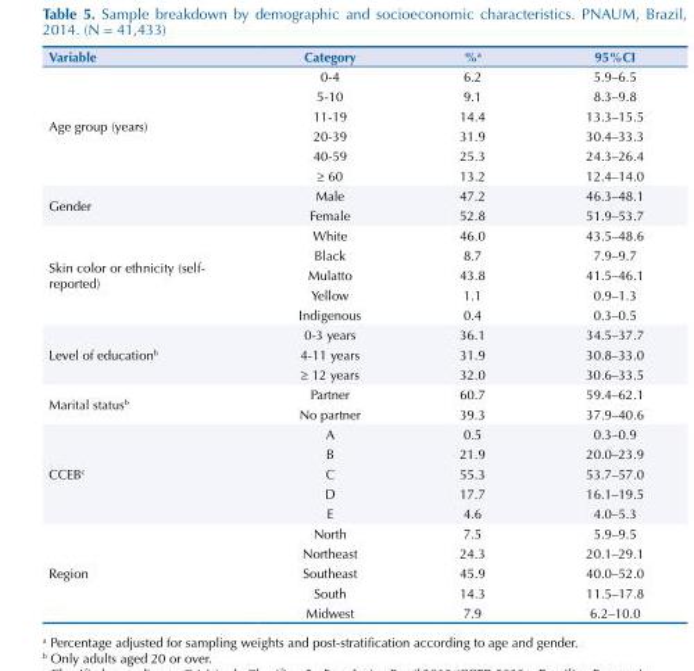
<table><thead><tr><td>Variable</td><td>Category</td><td>%<sup>a</sup></td><td>95%CI</td></tr></thead><tbody><tr><td rowspan="6">Age group (years)</td><td>0-4</td><td>6.2</td><td>5.9–6.5</td></tr><tr><td>5-10</td><td>9.1</td><td>8.3–9.8</td></tr><tr><td>11-19</td><td>14.4</td><td>13.3–15.5</td></tr><tr><td>20-39</td><td>31.9</td><td>30.4–33.3</td></tr><tr><td>40-59</td><td>25.3</td><td>24.3–26.4</td></tr><tr><td>≥ 60</td><td>13.2</td><td>12.4–14.0</td></tr><tr><td rowspan="2">Gender</td><td>Male</td><td>47.2</td><td>46.3–48.1</td></tr><tr><td>Female</td><td>52.8</td><td>51.9–53.7</td></tr><tr><td rowspan="5">Skin color or ethnicity (self- reported)</td><td>White</td><td>46.0</td><td>43.5–48.6</td></tr><tr><td>Black</td><td>8.7</td><td>7.9–9.7</td></tr><tr><td>Mulatto</td><td>43.8</td><td>41.5–46.1</td></tr><tr><td>Yellow</td><td>1.1</td><td>0.9–1.3</td></tr><tr><td>Indigenous</td><td>0.4</td><td>0.3–0.5</td></tr><tr><td rowspan="3">Level of education<sup>b</sup></td><td>0-3 years</td><td>36.1</td><td>34.5–37.7</td></tr><tr><td>4-11 years</td><td>31.9</td><td>30.8–33.0</td></tr><tr><td>≥ 12 years</td><td>32.0</td><td>30.6–33.5</td></tr><tr><td rowspan="2">Marital status<sup>b</sup></td><td>Partner</td><td>60.7</td><td>59.4–62.1</td></tr><tr><td>No partner</td><td>39.3</td><td>37.9–40.6</td></tr><tr><td rowspan="5">CCEB<sup>c</sup></td><td>A</td><td>0.5</td><td>0.3–0.9</td></tr><tr><td>B</td><td>21.9</td><td>20.0–23.9</td></tr><tr><td>C</td><td>55.3</td><td>53.7–57.0</td></tr><tr><td>D</td><td>17.7</td><td>16.1–19.5</td></tr><tr><td>E</td><td>4.6</td><td>4.0–5.3</td></tr><tr><td rowspan="5">Region</td><td>North</td><td>7.5</td><td>5.9–9.5</td></tr><tr><td>Northeast</td><td>24.3</td><td>20.1–29.1</td></tr><tr><td>Southeast</td><td>45.9</td><td>40.0–52.0</td></tr><tr><td>South</td><td>14.3</td><td>11.5–17.8</td></tr><tr><td>Midwest</td><td>7.9</td><td>6.2–10.0</td></tr></tbody></table>